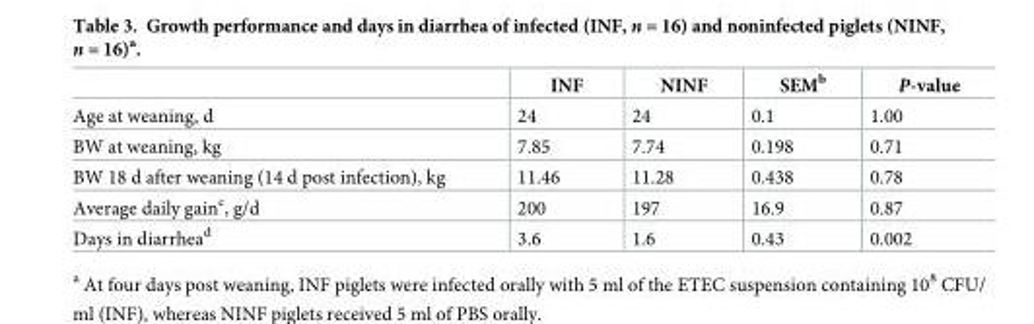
<table><thead><tr><td></td><td>INF</td><td>NINF</td><td>SEM<sup>b</sup></td><td>P-value</td></tr></thead><tbody><tr><td>Age at weaning, d</td><td>24</td><td>24</td><td>0.1</td><td>1.00</td></tr><tr><td>BW at weaning, kg</td><td>7.85</td><td>7.74</td><td>0.198</td><td>0.71</td></tr><tr><td>BW 18 d after weaning (14 d post infection), kg</td><td>11.46</td><td>11.28</td><td>0.438</td><td>0.78</td></tr><tr><td>Average daily gain<sup>c</sup>, g/d</td><td>200</td><td>197</td><td>16.9</td><td>0.87</td></tr><tr><td>Days in diarrhea<sup>d</sup></td><td>3.6</td><td>1.6</td><td>0.43</td><td>0.002</td></tr></tbody></table>